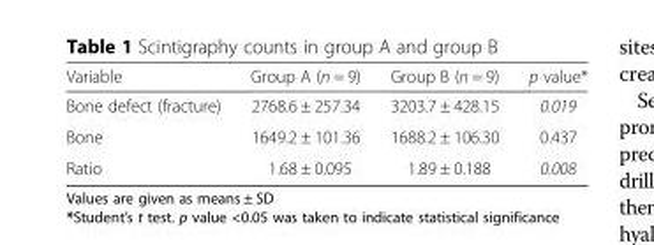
<table><thead><tr><td>Variable</td><td>Group A (n = 9)</td><td>Group B (n = 9)</td><td>p value*</td></tr></thead><tbody><tr><td>Bone defect (fracture)</td><td>2768.6 ± 257.34</td><td>3203.7 ± 428.15</td><td>0.019</td></tr><tr><td>Bone</td><td>1649.2 ± 101.36</td><td>1688.2 ± 106.30</td><td>0.437</td></tr><tr><td>Ratio</td><td>1.68 ± 0.095</td><td>1.89 ± 0.188</td><td>0.008</td></tr></tbody></table>